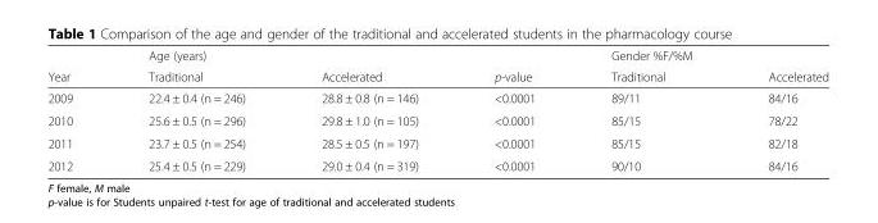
<table><thead><tr><td rowspan="2">Year</td><td rowspan="2">Age (years) Traditional</td><td rowspan="2">Accelerated</td><td rowspan="2">p-value</td><td rowspan="2">Gender %F/%M Traditional</td><td rowspan="2">Accelerated</td></tr><tr></tr></thead><tbody><tr><td>2009</td><td>22.4 ± 0.4 (n = 246)</td><td>28.8 ± 0.8 (n = 146)</td><td>&lt;0.0001</td><td>89/11</td><td>84/16</td></tr><tr><td>2010</td><td>25.6 ± 0.5 (n = 296)</td><td>29.8 ± 1.0 (n = 105)</td><td>&lt;0.0001</td><td>85/15</td><td>78/22</td></tr><tr><td>2011</td><td>23.7 ± 0.5 (n = 254)</td><td>28.5 ± 0.5 (n = 197)</td><td>&lt;0.0001</td><td>85/15</td><td>82/18</td></tr><tr><td>2012</td><td>25.4 ± 0.5 (n = 229)</td><td>29.0 ± 0.4 (n = 319)</td><td>&lt;0.0001</td><td>90/10</td><td>84/16</td></tr></tbody></table>